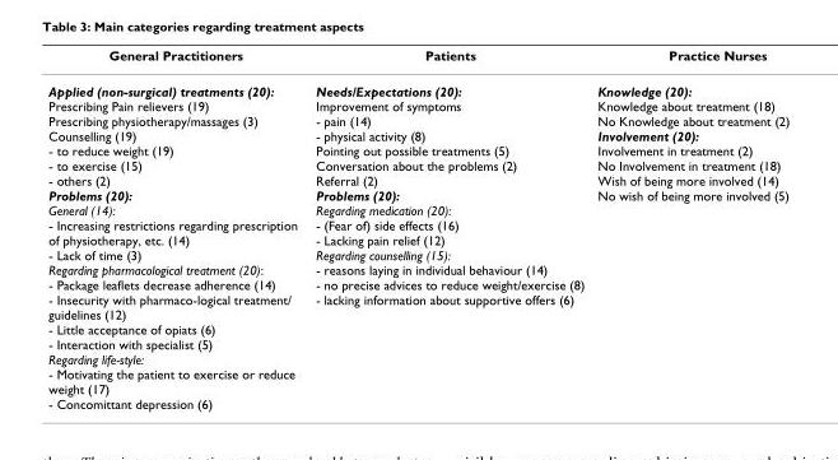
<table><thead><tr><td>General Practitioners</td><td>Patients</td><td>Practice Nurses</td></tr></thead><tbody><tr><td>Applied (non-surgical) treatments (20): Prescribing Pain relievers (19) Prescribing physiotherapy/massages (3) Counselling (19) - to reduce weight (19) - to exercise (15) - others (2) Problems (20): General (14): - Increasing restrictions regarding prescription of physiotherapy, etc. (14) - Lack of time (3) Regarding pharmacological treatment (20): - Package leaflets decrease adherence (14) - Insecurity with pharmaco-logical treatment/ guidelines (12) - Little acceptance of opiats (6) - Interaction with specialist (5) Regarding life-style: - Motivating the patient to exercise or reduce weight (17) - Concomittant depression (6)</td><td>Needs/Expectations (20): Improvement of symptoms - pain (14) - physical activity (8) Pointing out possible treatments (5) Conversation about the problems (2) Referral (2) Problems (20): Regarding medication (20): - (Fear of) side effects (16) - Lacking pain relief (12) Regarding counselling (15): - reasons laying in individual behaviour (14) - no precise advices to reduce weight/exercise (8) - lacking information about supportive offers (6)</td><td>Knowledge (20): Knowledge about treatment (18) No Knowledge about treatment (2) Involvement (20): Involvement in treatment (2) No Involvement in treatment (18) Wish of being more involved (14) No wish of being more involved (5)</td></tr></tbody></table>